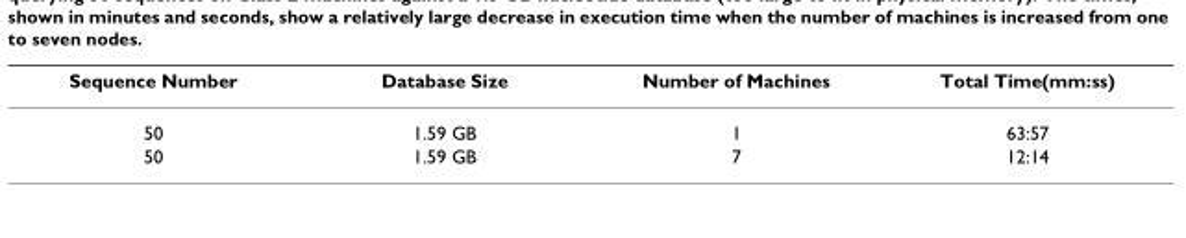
<table><thead><tr><td>Sequence Number</td><td>Database Size</td><td>Number of Machines</td><td>Total Time(mm:ss)</td></tr></thead><tbody><tr><td>50</td><td>1.59 GB</td><td>1</td><td>63:57</td></tr><tr><td>50</td><td>1.59 GB</td><td>7</td><td>12:14</td></tr></tbody></table>